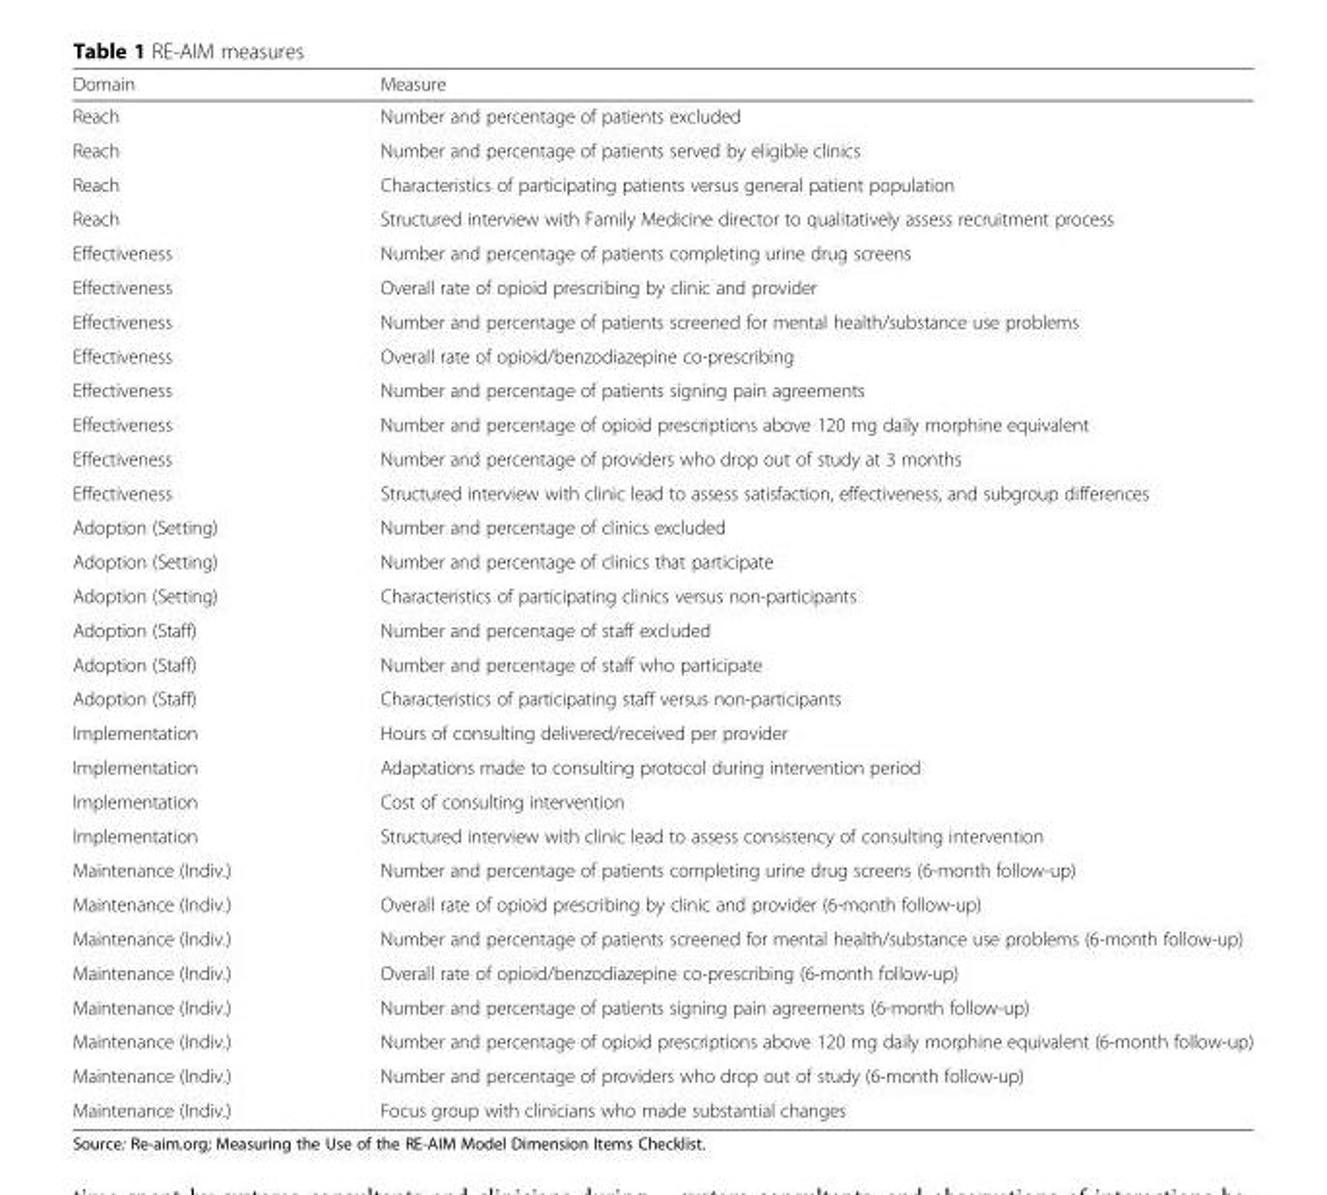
<table><thead><tr><td>Domain</td><td>Measure</td></tr></thead><tbody><tr><td>Reach</td><td>Number and percentage of patients excluded</td></tr><tr><td>Reach</td><td>Number and percentage of patients served by eligible clinics</td></tr><tr><td>Reach</td><td>Characteristics of participating patients versus general patient population</td></tr><tr><td>Reach</td><td>Structured interview with Family Medicine director to qualitatively assess recruitment process</td></tr><tr><td>Effectiveness</td><td>Number and percentage of patients completing urine drug screens</td></tr><tr><td>Effectiveness</td><td>Overall rate of opioid prescribing by clinic and provider</td></tr><tr><td>Effectiveness</td><td>Number and percentage of patients screened for mental health/substance use problems</td></tr><tr><td>Effectiveness</td><td>Overall rate of opioid/benzodiazepine co-prescribing</td></tr><tr><td>Effectiveness</td><td>Number and percentage of patients signing pain agreements</td></tr><tr><td>Effectiveness</td><td>Number and percentage of opioid prescriptions above 120 mg daily morphine equivalent</td></tr><tr><td>Effectiveness</td><td>Number and percentage of providers who drop out of study at 3 months</td></tr><tr><td>Effectiveness</td><td>Structured interview with clinic lead to assess satisfaction, effectiveness, and subgroup differences</td></tr><tr><td>Adoption (Setting)</td><td>Number and percentage of clinics excluded</td></tr><tr><td>Adoption (Setting)</td><td>Number and percentage of clinics that participate</td></tr><tr><td>Adoption (Setting)</td><td>Characteristics of participating clinics versus non-participants</td></tr><tr><td>Adoption (Staff)</td><td>Number and percentage of staff excluded</td></tr><tr><td>Adoption (Staff)</td><td>Number and percentage of staff who participate</td></tr><tr><td>Adoption (Staff)</td><td>Characteristics of participating staff versus non-participants</td></tr><tr><td>Implementation</td><td>Hours of consulting delivered/received per provider</td></tr><tr><td>Implementation</td><td>Adaptations made to consulting protocol during intervention period</td></tr><tr><td>Implementation</td><td>Cost of consulting intervention</td></tr><tr><td>Implementation</td><td>Structured interview with clinic lead to assess consistency of consulting intervention</td></tr><tr><td>Maintenance (Indiv.)</td><td>Number and percentage of patients completing urine drug screens (6-month follow-up)</td></tr><tr><td>Maintenance (Indiv.)</td><td>Overall rate of opioid prescribing by clinic and provider (6-month follow-up)</td></tr><tr><td>Maintenance (Indiv.)</td><td>Number and percentage of patients screened for mental health/substance use problems (6-month follow-up)</td></tr><tr><td>Maintenance (Indiv.)</td><td>Overall rate of opioid/benzodiazepine co-prescribing (6-month follow-up)</td></tr><tr><td>Maintenance (Indiv.)</td><td>Number and percentage of patients signing pain agreements (6-month follow-up)</td></tr><tr><td>Maintenance (Indiv.)</td><td>Number and percentage of opioid prescriptions above 120 mg daily morphine equivalent (6-month follow-up)</td></tr><tr><td>Maintenance (Indiv.)</td><td>Number and percentage of providers who drop out of study (6-month follow-up)</td></tr><tr><td>Maintenance (Indiv.)</td><td>Focus group with clinicians who made substantial changes</td></tr></tbody></table>